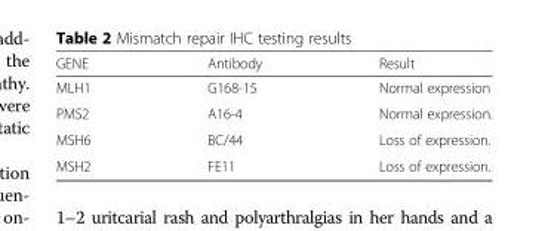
<table><thead><tr><td>GENE</td><td>Antibody</td><td>Result</td></tr></thead><tbody><tr><td>MLH1</td><td>G168-15</td><td>Normal expression</td></tr><tr><td>PMS2</td><td>A16-4</td><td>Normal expression.</td></tr><tr><td>MSH6</td><td>BC/44</td><td>Loss of expression.</td></tr><tr><td>MSH2</td><td>FE11</td><td>Loss of expression.</td></tr></tbody></table>